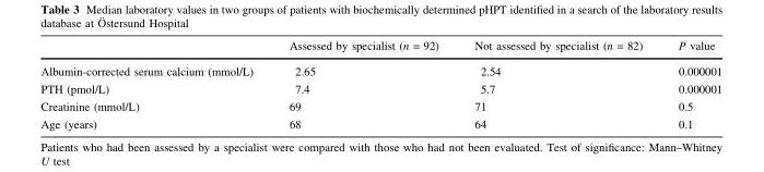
<table><thead><tr><td></td><td>Assessed by specialist (n = 92)</td><td>Not assessed by specialist (n = 82)</td><td>P value</td></tr></thead><tbody><tr><td>Albumin-corrected serum calcium (mmol/L)</td><td>2.65</td><td>2.54</td><td>0.000001</td></tr><tr><td>PTH (pmol/L)</td><td>7.4</td><td>5.7</td><td>0.000001</td></tr><tr><td>Creatinine (mmol/L)</td><td>69</td><td>71</td><td>0.5</td></tr><tr><td>Age (years)</td><td>68</td><td>64</td><td>0.1</td></tr></tbody></table>